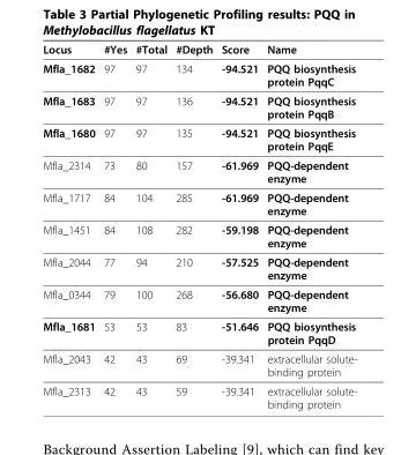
<table><thead><tr><td>Locus</td><td>#Yes</td><td>#Total</td><td>#Depth</td><td>Score</td><td>Name</td></tr></thead><tbody><tr><td>Mfla_1682</td><td>97</td><td>97</td><td>134</td><td>-94.521</td><td>PQQ biosynthesis protein PqqC</td></tr><tr><td>Mfla_1683</td><td>97</td><td>97</td><td>136</td><td>-94.521</td><td>PQQ biosynthesis protein PqqB</td></tr><tr><td>Mfla_1680</td><td>97</td><td>97</td><td>135</td><td>-94.521</td><td>PQQ biosynthesis protein PqqE</td></tr><tr><td>Mfla_2314</td><td>73</td><td>80</td><td>157</td><td>-61.969</td><td>PQQ-dependent enzyme</td></tr><tr><td>Mfla_1717</td><td>84</td><td>104</td><td>285</td><td>-61.969</td><td>PQQ-dependent enzyme</td></tr><tr><td>Mfla_1451</td><td>84</td><td>108</td><td>282</td><td>-59.198</td><td>PQQ-dependent enzyme</td></tr><tr><td>Mfla_2044</td><td>77</td><td>94</td><td>210</td><td>-57.525</td><td>PQQ-dependent enzyme</td></tr><tr><td>Mfla_0344</td><td>79</td><td>100</td><td>268</td><td>-56.680</td><td>PQQ-dependent enzyme</td></tr><tr><td>Mfla_1681</td><td>53</td><td>53</td><td>83</td><td>-51.646</td><td>PQQ biosynthesis protein PqqD</td></tr><tr><td>Mfla_2043</td><td>42</td><td>43</td><td>69</td><td>-39.341</td><td>extracellular solute- binding protein</td></tr><tr><td>Mfla_2313</td><td>42</td><td>43</td><td>59</td><td>-39.341</td><td>extracellular solute- binding protein</td></tr></tbody></table>